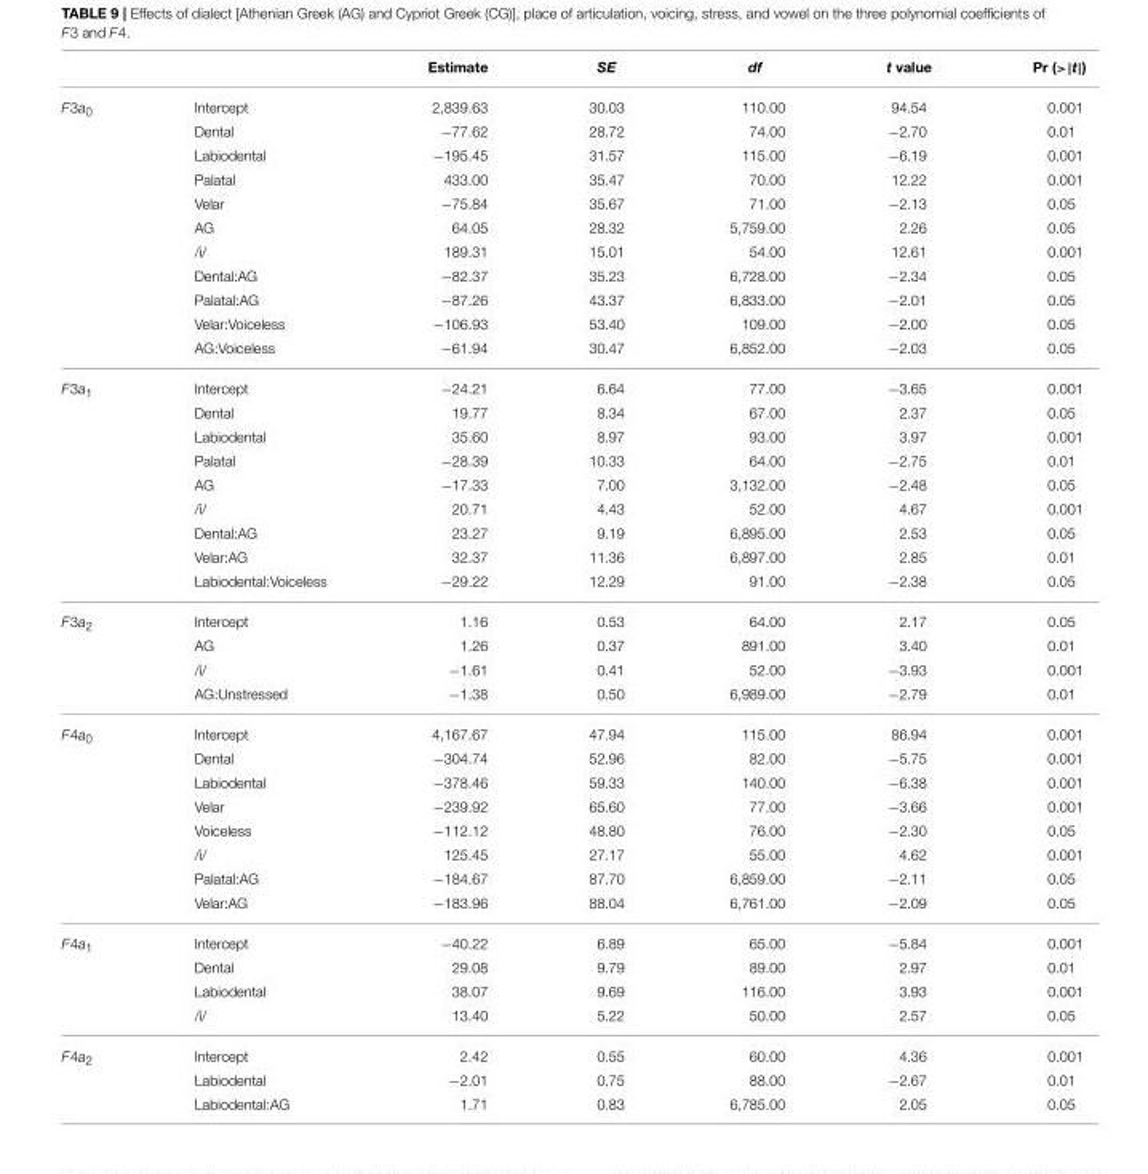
<table><thead><tr><td></td><td></td><td>Estimate</td><td>SE</td><td>df</td><td>t value</td><td>Pr (&gt;|t|)</td></tr></thead><tbody><tr><td rowspan="11">F3a<sub>0</sub></td><td>Intercept</td><td>2,839.63</td><td>30.03</td><td>110.00</td><td>94.54</td><td>0.001</td></tr><tr><td>Dental</td><td>−77.62</td><td>28.72</td><td>74.00</td><td>−2.70</td><td>0.01</td></tr><tr><td>Labiodental</td><td>−195.45</td><td>31.57</td><td>115.00</td><td>−6.19</td><td>0.001</td></tr><tr><td>Palatal</td><td>433.00</td><td>35.47</td><td>70.00</td><td>12.22</td><td>0.001</td></tr><tr><td>Velar</td><td>−75.84</td><td>35.67</td><td>71.00</td><td>−2.13</td><td>0.05</td></tr><tr><td>AG</td><td>64.05</td><td>28.32</td><td>5,759.00</td><td>2.26</td><td>0.05</td></tr><tr><td>/i/</td><td>189.31</td><td>15.01</td><td>54.00</td><td>12.61</td><td>0.001</td></tr><tr><td>Dental:AG</td><td>−82.37</td><td>35.23</td><td>6,728.00</td><td>−2.34</td><td>0.05</td></tr><tr><td>Palatal:AG</td><td>−87.26</td><td>43.37</td><td>6,833.00</td><td>−2.01</td><td>0.05</td></tr><tr><td>Velar:Voiceless</td><td>−106.93</td><td>53.40</td><td>109.00</td><td>−2.00</td><td>0.05</td></tr><tr><td>AG:Voiceless</td><td>−61.94</td><td>30.47</td><td>6,852.00</td><td>−2.03</td><td>0.05</td></tr><tr><td rowspan="9">F3a<sub>1</sub></td><td>Intercept</td><td>−24.21</td><td>6.64</td><td>77.00</td><td>−3.65</td><td>0.001</td></tr><tr><td>Dental</td><td>19.77</td><td>8.34</td><td>67.00</td><td>2.37</td><td>0.05</td></tr><tr><td>Labiodental</td><td>35.60</td><td>8.97</td><td>93.00</td><td>3.97</td><td>0.001</td></tr><tr><td>Palatal</td><td>−28.39</td><td>10.33</td><td>64.00</td><td>−2.75</td><td>0.01</td></tr><tr><td>AG</td><td>−17.33</td><td>7.00</td><td>3,132.00</td><td>−2.48</td><td>0.05</td></tr><tr><td>/i/</td><td>20.71</td><td>4.43</td><td>52.00</td><td>4.67</td><td>0.001</td></tr><tr><td>Dental:AG</td><td>23.27</td><td>9.19</td><td>6,895.00</td><td>2.53</td><td>0.05</td></tr><tr><td>Velar:AG</td><td>32.37</td><td>11.36</td><td>6,897.00</td><td>2.85</td><td>0.01</td></tr><tr><td>Labiodental:Voiceless</td><td>−29.22</td><td>12.29</td><td>91.00</td><td>−2.38</td><td>0.05</td></tr><tr><td rowspan="4">F3a<sub>2</sub></td><td>Intercept</td><td>1.16</td><td>0.53</td><td>64.00</td><td>2.17</td><td>0.05</td></tr><tr><td>AG</td><td>1.26</td><td>0.37</td><td>891.00</td><td>3.40</td><td>0.01</td></tr><tr><td>/i/</td><td>−1.61</td><td>0.41</td><td>52.00</td><td>−3.93</td><td>0.001</td></tr><tr><td>AG:Unstressed</td><td>−1.38</td><td>0.50</td><td>6,989.00</td><td>−2.79</td><td>0.01</td></tr><tr><td rowspan="8">F4a<sub>0</sub></td><td>Intercept</td><td>4,167.67</td><td>47.94</td><td>115.00</td><td>86.94</td><td>0.001</td></tr><tr><td>Dental</td><td>−304.74</td><td>52.96</td><td>82.00</td><td>−5.75</td><td>0.001</td></tr><tr><td>Labiodental</td><td>−378.46</td><td>59.33</td><td>140.00</td><td>−6.38</td><td>0.001</td></tr><tr><td>Velar</td><td>−239.92</td><td>65.60</td><td>77.00</td><td>−3.66</td><td>0.001</td></tr><tr><td>Voiceless</td><td>−112.12</td><td>48.80</td><td>76.00</td><td>−2.30</td><td>0.05</td></tr><tr><td>/i/</td><td>125.45</td><td>27.17</td><td>55.00</td><td>4.62</td><td>0.001</td></tr><tr><td>Palatal:AG</td><td>−184.67</td><td>87.70</td><td>6,859.00</td><td>−2.11</td><td>0.05</td></tr><tr><td>Velar:AG</td><td>−183.96</td><td>88.04</td><td>6,761.00</td><td>−2.09</td><td>0.05</td></tr><tr><td rowspan="4">F4a<sub>1</sub></td><td>Intercept</td><td>−40.22</td><td>6.89</td><td>65.00</td><td>−5.84</td><td>0.001</td></tr><tr><td>Dental</td><td>29.08</td><td>9.79</td><td>89.00</td><td>2.97</td><td>0.01</td></tr><tr><td>Labiodental</td><td>38.07</td><td>9.69</td><td>116.00</td><td>3.93</td><td>0.001</td></tr><tr><td>/i/</td><td>13.40</td><td>5.22</td><td>50.00</td><td>2.57</td><td>0.05</td></tr><tr><td rowspan="3">F4a<sub>2</sub></td><td>Intercept</td><td>2.42</td><td>0.55</td><td>60.00</td><td>4.36</td><td>0.001</td></tr><tr><td>Labiodental</td><td>−2.01</td><td>0.75</td><td>88.00</td><td>−2.67</td><td>0.01</td></tr><tr><td>Labiodental:AG</td><td>1.71</td><td>0.83</td><td>6,785.00</td><td>2.05</td><td>0.05</td></tr></tbody></table>